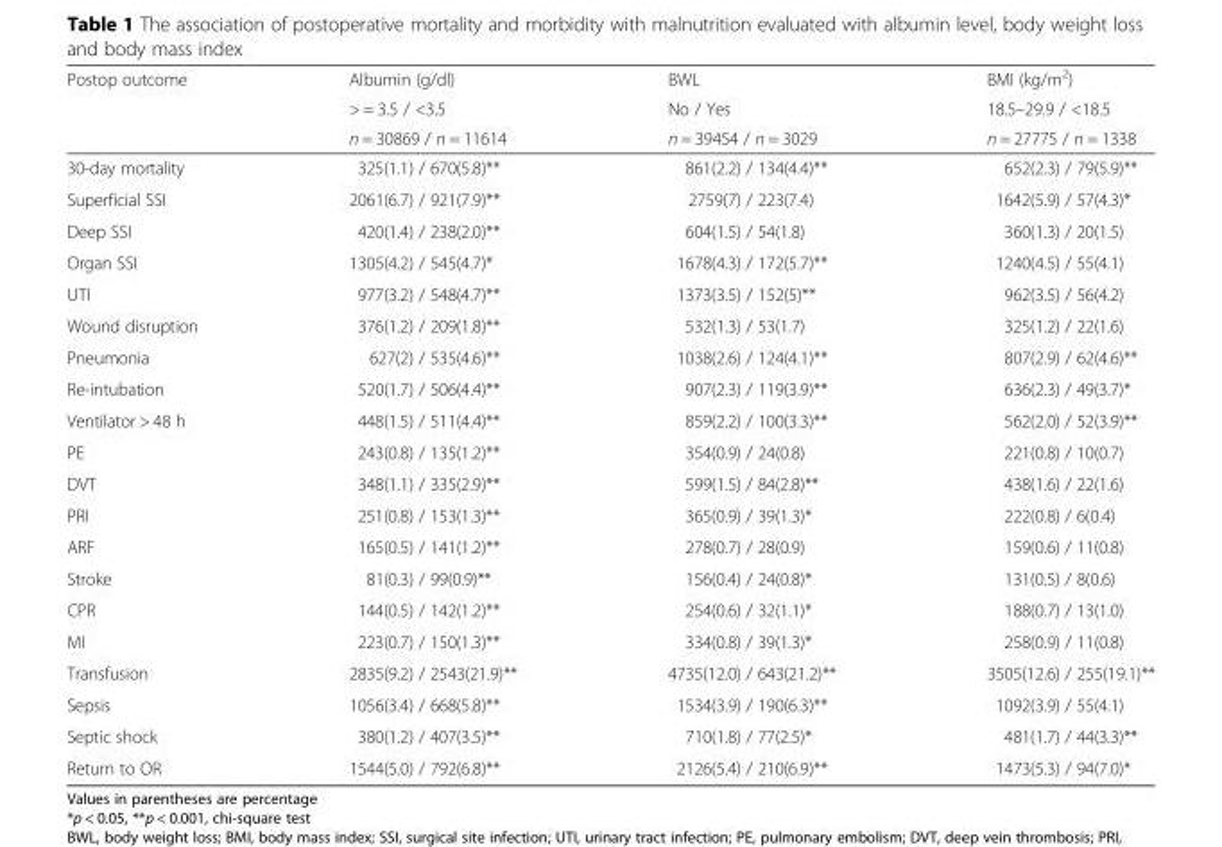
<table><thead><tr><td rowspan="3">Postop outcome</td><td rowspan="3">Albumin (g/dl) &gt; = 3.5 / &lt;3.5 n = 30869 / n = 11614</td><td rowspan="3">BWL No / Yes n = 39454 / n = 3029</td><td rowspan="3">BMI (kg/m<sup>2</sup>) 18.5–29.9 / &lt;18.5 n = 27775 / n = 1338</td></tr><tr></tr><tr></tr></thead><tbody><tr><td>30-day mortality</td><td>325(1.1) / 670(5.8)**</td><td>861(2.2) / 134(4.4)**</td><td>652(2.3) / 79(5.9)**</td></tr><tr><td>Superficial SSI</td><td>2061(6.7) / 921(7.9)**</td><td>2759(7) / 223(7.4)</td><td>1642(5.9) / 57(4.3)*</td></tr><tr><td>Deep SSI</td><td>420(1.4) / 238(2.0)**</td><td>604(1.5) / 54(1.8)</td><td>360(1.3) / 20(1.5)</td></tr><tr><td>Organ SSI</td><td>1305(4.2) / 545(4.7)*</td><td>1678(4.3) / 172(5.7)**</td><td>1240(4.5) / 55(4.1)</td></tr><tr><td>UTI</td><td>977(3.2) / 548(4.7)**</td><td>1373(3.5) / 152(5)**</td><td>962(3.5) / 56(4.2)</td></tr><tr><td>Wound disruption</td><td>376(1.2) / 209(1.8)**</td><td>532(1.3) / 53(1.7)</td><td>325(1.2) / 22(1.6)</td></tr><tr><td>Pneumonia</td><td>627(2) / 535(4.6)**</td><td>1038(2.6) / 124(4.1)**</td><td>807(2.9) / 62(4.6)**</td></tr><tr><td>Re-intubation</td><td>520(1.7) / 506(4.4)**</td><td>907(2.3) / 119(3.9)**</td><td>636(2.3) / 49(3.7)*</td></tr><tr><td>Ventilator &gt; 48 h</td><td>448(1.5) / 511(4.4)**</td><td>859(2.2) / 100(3.3)**</td><td>562(2.0) / 52(3.9)**</td></tr><tr><td>PE</td><td>243(0.8) / 135(1.2)**</td><td>354(0.9) / 24(0.8)</td><td>221(0.8) / 10(0.7)</td></tr><tr><td>DVT</td><td>348(1.1) / 335(2.9)**</td><td>599(1.5) / 84(2.8)**</td><td>438(1.6) / 22(1.6)</td></tr><tr><td>PRI</td><td>251(0.8) / 153(1.3)**</td><td>365(0.9) / 39(1.3)*</td><td>222(0.8) / 6(0.4)</td></tr><tr><td>ARF</td><td>165(0.5) / 141(1.2)**</td><td>278(0.7) / 28(0.9)</td><td>159(0.6) / 11(0.8)</td></tr><tr><td>Stroke</td><td>81(0.3) / 99(0.9)**</td><td>156(0.4) / 24(0.8)*</td><td>131(0.5) / 8(0.6)</td></tr><tr><td>CPR</td><td>144(0.5) / 142(1.2)**</td><td>254(0.6) / 32(1.1)*</td><td>188(0.7) / 13(1.0)</td></tr><tr><td>MI</td><td>223(0.7) / 150(1.3)**</td><td>334(0.8) / 39(1.3)*</td><td>258(0.9) / 11(0.8)</td></tr><tr><td>Transfusion</td><td>2835(9.2) / 2543(21.9)**</td><td>4735(12.0) / 643(21.2)**</td><td>3505(12.6) / 255(19.1)**</td></tr><tr><td>Sepsis</td><td>1056(3.4) / 668(5.8)**</td><td>1534(3.9) / 190(6.3)**</td><td>1092(3.9) / 55(4.1)</td></tr><tr><td>Septic shock</td><td>380(1.2) / 407(3.5)**</td><td>710(1.8) / 77(2.5)*</td><td>481(1.7) / 44(3.3)**</td></tr><tr><td>Return to OR</td><td>1544(5.0) / 792(6.8)**</td><td>2126(5.4) / 210(6.9)**</td><td>1473(5.3) / 94(7.0)*</td></tr></tbody></table>